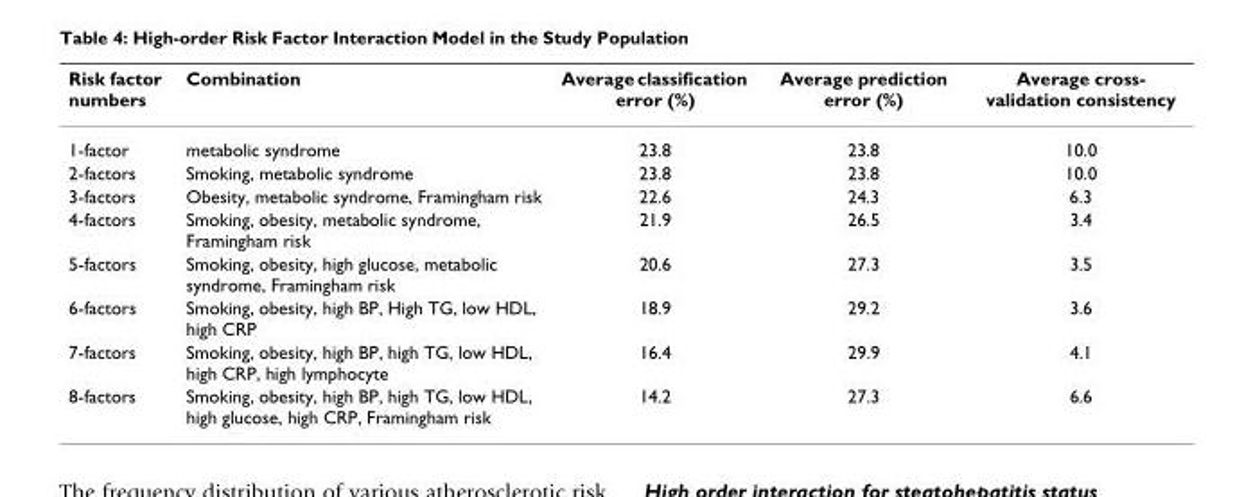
<table><thead><tr><td>Risk factor numbers</td><td>Combination</td><td>Average classification error (%)</td><td>Average prediction error (%)</td><td>Average cross- validation consistency</td></tr></thead><tbody><tr><td>1-factor</td><td>metabolic syndrome</td><td>23.8</td><td>23.8</td><td>10.0</td></tr><tr><td>2-factors</td><td>Smoking, metabolic syndrome</td><td>23.8</td><td>23.8</td><td>10.0</td></tr><tr><td>3-factors</td><td>Obesity, metabolic syndrome, Framingham risk</td><td>22.6</td><td>24.3</td><td>6.3</td></tr><tr><td>4-factors</td><td>Smoking, obesity, metabolic syndrome, Framingham risk</td><td>21.9</td><td>26.5</td><td>3.4</td></tr><tr><td>5-factors</td><td>Smoking, obesity, high glucose, metabolic syndrome, Framingham risk</td><td>20.6</td><td>27.3</td><td>3.5</td></tr><tr><td>6-factors</td><td>Smoking, obesity, high BP, High TG, low HDL, high CRP</td><td>18.9</td><td>29.2</td><td>3.6</td></tr><tr><td>7-factors</td><td>Smoking, obesity, high BP, high TG, low HDL, high CRP, high lymphocyte</td><td>16.4</td><td>29.9</td><td>4.1</td></tr><tr><td>8-factors</td><td>Smoking, obesity, high BP, high TG, low HDL, high glucose, high CRP, Framingham risk</td><td>14.2</td><td>27.3</td><td>6.6</td></tr></tbody></table>